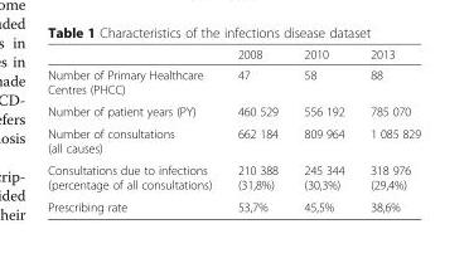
<table><thead><tr><td></td><td>2008</td><td>2010</td><td>2013</td></tr></thead><tbody><tr><td>Number of Primary Healthcare Centres (PHCC)</td><td>47</td><td>58</td><td>88</td></tr><tr><td>Number of patient years (PY)</td><td>460 529</td><td>556 192</td><td>785 070</td></tr><tr><td>Number of consultations (all causes)</td><td>662 184</td><td>809 964</td><td>1 085 829</td></tr><tr><td>Consultations due to infections (percentage of all consultations)</td><td>210 388 (31,8%)</td><td>245 344 (30,3%)</td><td>318 976 (29,4%)</td></tr><tr><td>Prescribing rate</td><td>53,7%</td><td>45,5%</td><td>38,6%</td></tr></tbody></table>